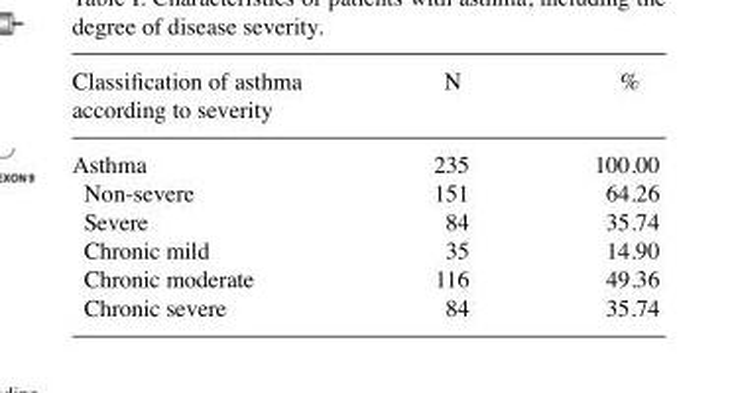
<table><thead><tr><td>Classification of asthma according to severity</td><td>N</td><td>%</td></tr></thead><tbody><tr><td>Asthma</td><td>235</td><td>100.00</td></tr><tr><td>Non-severe</td><td>151</td><td>64.26</td></tr><tr><td>Severe</td><td>84</td><td>35.74</td></tr><tr><td>Chronic mild</td><td>35</td><td>14.90</td></tr><tr><td>Chronic moderate</td><td>116</td><td>49.36</td></tr><tr><td>Chronic severe</td><td>84</td><td>35.74</td></tr></tbody></table>